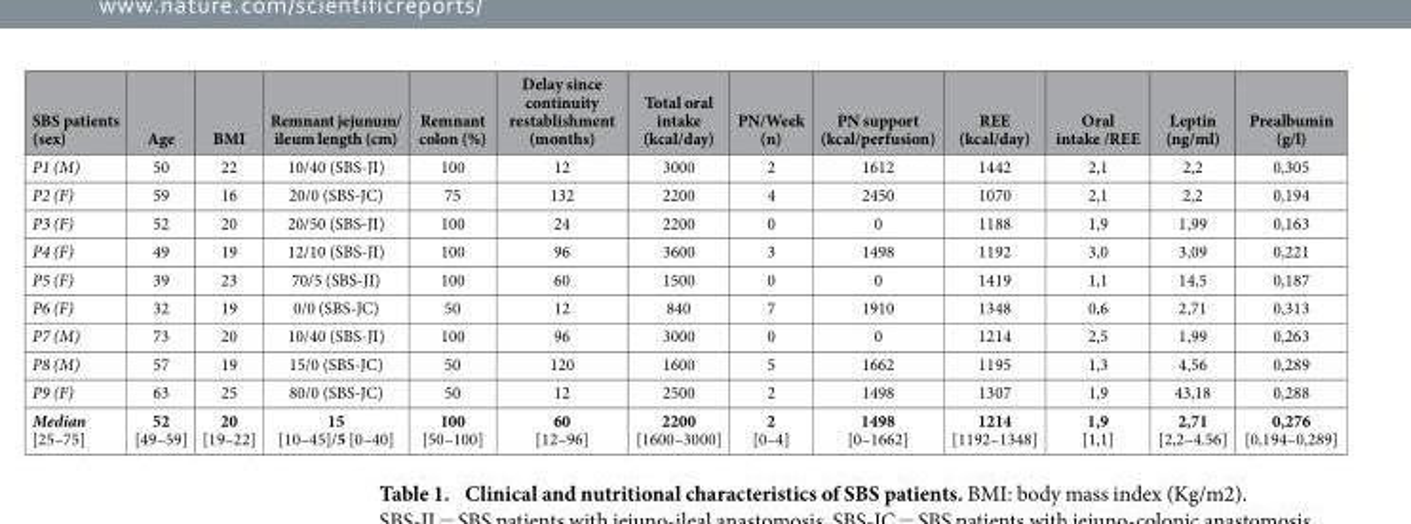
<table><thead><tr><td>SBS patients (sex)</td><td>Age</td><td>BMI</td><td>Remnant jejunum/ ileum length (cm)</td><td>Remnant colon (%)</td><td>Delay since continuity restablishment (months)</td><td>Total oral intake (kcal/day)</td><td>PN/Week (n)</td><td>PN support (kcal/perfusion)</td><td>REE (kcal/day)</td><td>Oral intake /REE</td><td>Leptin (ng/ml)</td><td>Prealbumin (g/l)</td></tr></thead><tbody><tr><td>P1 (M)</td><td>50</td><td>22</td><td>10/40 (SBS-JI)</td><td>100</td><td>12</td><td>3000</td><td>2</td><td>1612</td><td>1442</td><td>2,1</td><td>2,2</td><td>0,305</td></tr><tr><td>P2 (F)</td><td>59</td><td>16</td><td>20/0 (SBS-JC)</td><td>75</td><td>132</td><td>2200</td><td>4</td><td>2450</td><td>1070</td><td>2,1</td><td>2,2</td><td>0,194</td></tr><tr><td>P3 (F)</td><td>52</td><td>20</td><td>20/50 (SBS-JI)</td><td>100</td><td>24</td><td>2200</td><td>0</td><td>0</td><td>1188</td><td>1,9</td><td>1,99</td><td>0,163</td></tr><tr><td>P4 (F)</td><td>49</td><td>19</td><td>12/10 (SBS-JI)</td><td>100</td><td>96</td><td>3600</td><td>3</td><td>1498</td><td>1192</td><td>3,0</td><td>3,09</td><td>0,221</td></tr><tr><td>P5 (F)</td><td>39</td><td>23</td><td>70/5 (SBS-JI)</td><td>100</td><td>60</td><td>1500</td><td>0</td><td>0</td><td>1419</td><td>1,1</td><td>14,5</td><td>0,187</td></tr><tr><td>P6 (F)</td><td>32</td><td>19</td><td>0/0 (SBS-JC)</td><td>50</td><td>12</td><td>840</td><td>7</td><td>1910</td><td>1348</td><td>0,6</td><td>2,71</td><td>0,313</td></tr><tr><td>P7 (M)</td><td>73</td><td>20</td><td>10/40 (SBS-JI)</td><td>100</td><td>96</td><td>3000</td><td>0</td><td>0</td><td>1214</td><td>2,5</td><td>1,99</td><td>0,263</td></tr><tr><td>P8 (M)</td><td>57</td><td>19</td><td>15/0 (SBS-JC)</td><td>50</td><td>120</td><td>1600</td><td>5</td><td>1662</td><td>1195</td><td>1,3</td><td>4,56</td><td>0,289</td></tr><tr><td>P9 (F)</td><td>63</td><td>25</td><td>80/0 (SBS-JC)</td><td>50</td><td>12</td><td>2500</td><td>2</td><td>1498</td><td>1307</td><td>1,9</td><td>43,18</td><td>0,288</td></tr><tr><td>Median [25–75]</td><td>52 [49–59]</td><td>20 [19–22]</td><td>15 [10–45]/5 [0–40]</td><td>100 [50–100]</td><td>60 [12–96]</td><td>2200 [1600–3000]</td><td>2 [0–4]</td><td>1498 [0–1662]</td><td>1214 [1192–1348]</td><td>1,9 [1,1]</td><td>2,71 [2,2–4.56]</td><td>0,276 [0,194–0,289]</td></tr></tbody></table>